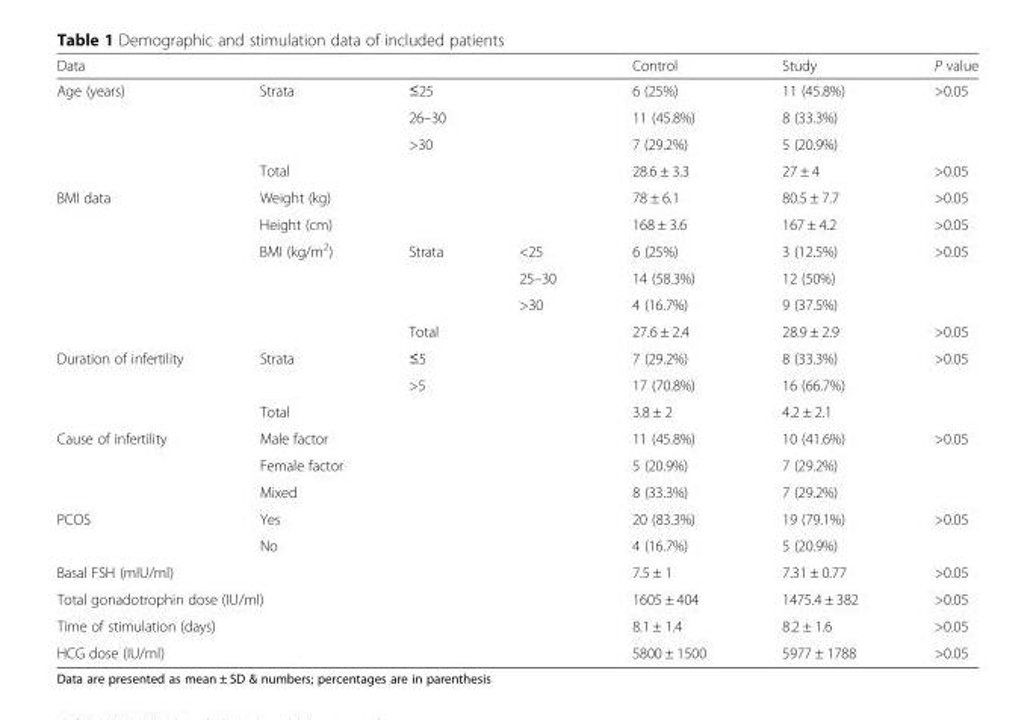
<table><thead><tr><td colspan="4">Data</td><td>Control</td><td>Study</td><td>P value</td></tr></thead><tbody><tr><td rowspan="4">Age (years)</td><td rowspan="3">Strata</td><td colspan="2">≤25</td><td>6 (25%)</td><td>11 (45.8%)</td><td rowspan="3">&gt;0.05</td></tr><tr><td colspan="2">26–30</td><td>11 (45.8%)</td><td>8 (33.3%)</td></tr><tr><td colspan="2">&gt;30</td><td>7 (29.2%)</td><td>5 (20.9%)</td></tr><tr><td colspan="3">Total</td><td>28.6 ± 3.3</td><td>27 ± 4</td><td>&gt;0.05</td></tr><tr><td rowspan="6">BMI data</td><td colspan="3">Weight (kg)</td><td>78 ± 6.1</td><td>80.5 ± 7.7</td><td>&gt;0.05</td></tr><tr><td colspan="3">Height (cm)</td><td>168 ± 3.6</td><td>167 ± 4.2</td><td>&gt;0.05</td></tr><tr><td rowspan="4">BMI (kg/m<sup>2</sup>)</td><td rowspan="3">Strata</td><td>&lt;25</td><td>6 (25%)</td><td>3 (12.5%)</td><td rowspan="3">&gt;0.05</td></tr><tr><td>25–30</td><td>14 (58.3%)</td><td>12 (50%)</td></tr><tr><td>&gt;30</td><td>4 (16.7%)</td><td>9 (37.5%)</td></tr><tr><td colspan="2">Total</td><td>27.6 ± 2.4</td><td>28.9 ± 2.9</td><td>&gt;0.05</td></tr><tr><td rowspan="3">Duration of infertility</td><td rowspan="2">Strata</td><td colspan="2">≤5</td><td>7 (29.2%)</td><td>8 (33.3%)</td><td rowspan="3">&gt;0.05</td></tr><tr><td colspan="2">&gt;5</td><td>17 (70.8%)</td><td>16 (66.7%)</td></tr><tr><td colspan="3">Total</td><td>3.8 ± 2</td><td>4.2 ± 2.1</td></tr><tr><td rowspan="3">Cause of infertility</td><td colspan="3">Male factor</td><td>11 (45.8%)</td><td>10 (41.6%)</td><td rowspan="3">&gt;0.05</td></tr><tr><td colspan="3">Female factor</td><td>5 (20.9%)</td><td>7 (29.2%)</td></tr><tr><td colspan="3">Mixed</td><td>8 (33.3%)</td><td>7 (29.2%)</td></tr><tr><td rowspan="2">PCOS</td><td colspan="3">Yes</td><td>20 (83.3%)</td><td>19 (79.1%)</td><td rowspan="2">&gt;0.05</td></tr><tr><td colspan="3">No</td><td>4 (16.7%)</td><td>5 (20.9%)</td></tr><tr><td colspan="4">Basal FSH (mIU/ml)</td><td>7.5 ± 1</td><td>7.31 ± 0.77</td><td>&gt;0.05</td></tr><tr><td colspan="4">Total gonadotrophin dose (IU/ml)</td><td>1605 ± 404</td><td>1475.4 ± 382</td><td>&gt;0.05</td></tr><tr><td colspan="4">Time of stimulation (days)</td><td>8.1 ± 1.4</td><td>8.2 ± 1.6</td><td>&gt;0.05</td></tr><tr><td colspan="4">HCG dose (IU/ml)</td><td>5800 ± 1500</td><td>5977 ± 1788</td><td>&gt;0.05</td></tr></tbody></table>